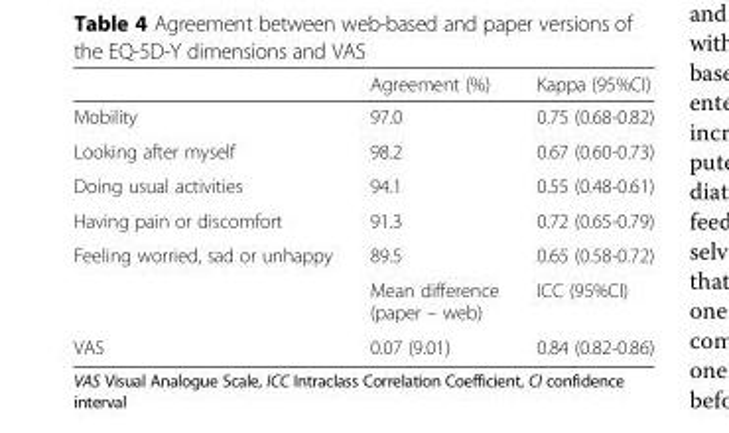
<table><thead><tr><td></td><td>Agreement (%)</td><td>Kappa (95%CI)</td></tr></thead><tbody><tr><td>Mobility</td><td>97.0</td><td>0.75 (0.68-0.82)</td></tr><tr><td>Looking after myself</td><td>98.2</td><td>0.67 (0.60-0.73)</td></tr><tr><td>Doing usual activities</td><td>94.1</td><td>0.55 (0.48-0.61)</td></tr><tr><td>Having pain or discomfort</td><td>91.3</td><td>0.72 (0.65-0.79)</td></tr><tr><td rowspan="2">Feeling worried, sad or unhappy</td><td>89.5</td><td>0.65 (0.58-0.72)</td></tr><tr><td>Mean difference (paper – web)</td><td>ICC (95%CI)</td></tr><tr><td>VAS</td><td>0.07 (9.01)</td><td>0.84 (0.82-0.86)</td></tr></tbody></table>